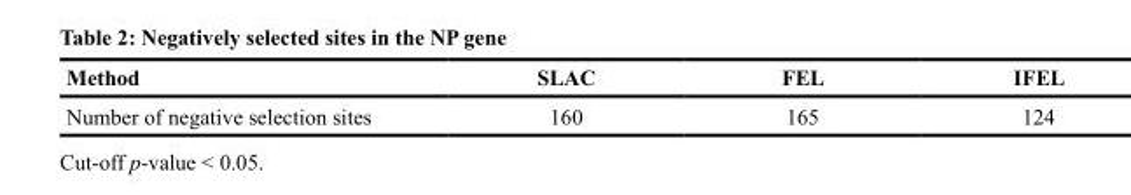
<table><thead><tr><td>Method</td><td>SLAC</td><td>FEL</td><td>IFEL</td></tr></thead><tbody><tr><td>Number of negative selection sites</td><td>160</td><td>165</td><td>124</td></tr></tbody></table>